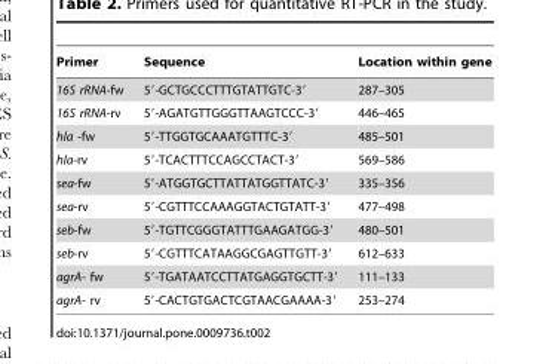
<table><thead><tr><td>Primer</td><td>Sequence</td><td>Location within gene</td></tr></thead><tbody><tr><td>16S rRNA-fw</td><td>5′-GCTGCCCTTTGTATTGTC-3′</td><td>287–305</td></tr><tr><td>16S rRNA-rv</td><td>5′-AGATGTTGGGTTAAGTCCC-3′</td><td>446–465</td></tr><tr><td>hla -fw</td><td>5′-TTGGTGCAAATGTTTC-3′</td><td>485–501</td></tr><tr><td>hla-rv</td><td>5′-TCACTTTCCAGCCTACT-3′</td><td>569–586</td></tr><tr><td>sea-fw</td><td>5′-ATGGTGCTTATTATGGTTATC-3′</td><td>335–356</td></tr><tr><td>sea-rv</td><td>5′-CGTTTCCAAAGGTACTGTATT-3′</td><td>477–498</td></tr><tr><td>seb-fw</td><td>5′-TGTTCGGGTATTTGAAGATGG-3′</td><td>480–501</td></tr><tr><td>seb-rv</td><td>5′-CGTTTCATAAGGCGAGTTGTT-3′</td><td>612–633</td></tr><tr><td>agrA- fw</td><td>5′-TGATAATCCTTATGAGGTGCTT-3′</td><td>111–133</td></tr><tr><td>agrA- rv</td><td>5′-CACTGTGACTCGTAACGAAAA-3′</td><td>253–274</td></tr></tbody></table>